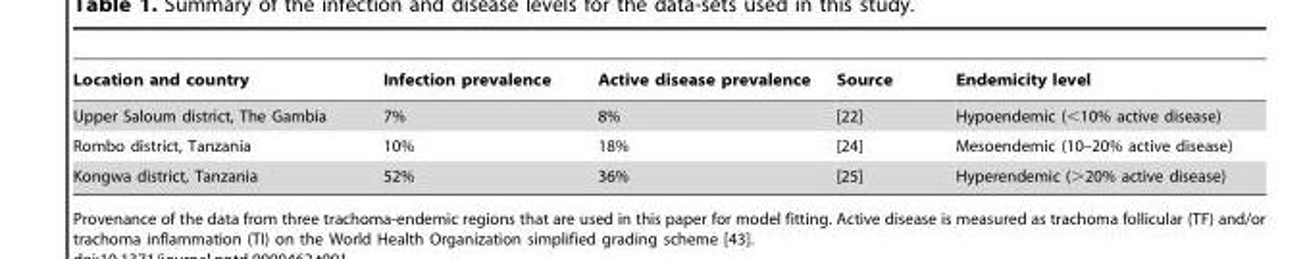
<table><thead><tr><td>Location and country</td><td>Infection prevalence</td><td>Active disease prevalence</td><td>Source</td><td>Endemicity level</td></tr></thead><tbody><tr><td>Upper Saloum district, The Gambia</td><td>7%</td><td>8%</td><td>[22]</td><td>Hypoendemic (&lt;10% active disease)</td></tr><tr><td>Rombo district, Tanzania</td><td>10%</td><td>18%</td><td>[24]</td><td>Mesoendemic (10–20% active disease)</td></tr><tr><td>Kongwa district, Tanzania</td><td>52%</td><td>36%</td><td>[25]</td><td>Hyperendemic (&gt;20% active disease)</td></tr></tbody></table>